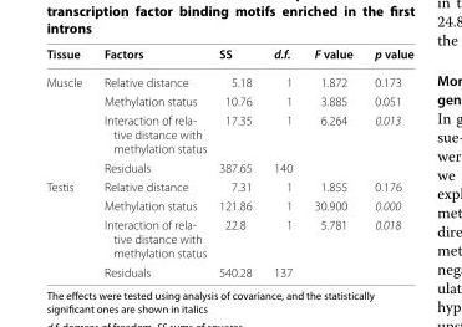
<table><thead><tr><td>Tissue</td><td>Factors</td><td>SS</td><td>d.f.</td><td>F value</td><td>p value</td></tr></thead><tbody><tr><td rowspan="4">Muscle</td><td>Relative distance</td><td>5.18</td><td>1</td><td>1.872</td><td>0.173</td></tr><tr><td>Methylation status</td><td>10.76</td><td>1</td><td>3.885</td><td>0.051</td></tr><tr><td>Interaction of rela‑ tive distance with methylation status</td><td>17.35</td><td>1</td><td>6.264</td><td>0.013</td></tr><tr><td>Residuals</td><td>387.65</td><td>140</td><td></td><td></td></tr><tr><td rowspan="4">Testis</td><td>Relative distance</td><td>7.31</td><td>1</td><td>1.855</td><td>0.176</td></tr><tr><td>Methylation status</td><td>121.86</td><td>1</td><td>30.900</td><td>0.000</td></tr><tr><td>Interaction of rela‑ tive distance with methylation status</td><td>22.8</td><td>1</td><td>5.781</td><td>0.018</td></tr><tr><td>Residuals</td><td>540.28</td><td>137</td><td></td><td></td></tr></tbody></table>